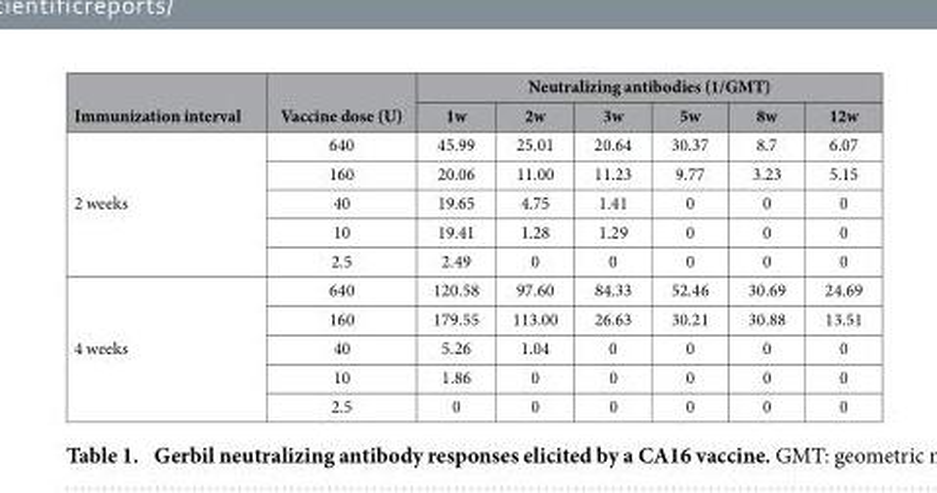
<table><thead><tr><td rowspan="2">Immunization interval</td><td rowspan="2">Vaccine dose (U)</td><td colspan="6">Neutralizing antibodies (1/GMT)</td></tr><tr><td>1w</td><td>2w</td><td>3w</td><td>5w</td><td>8w</td><td>12w</td></tr></thead><tbody><tr><td rowspan="5">2 weeks</td><td>640</td><td>45.99</td><td>25.01</td><td>20.64</td><td>30.37</td><td>8.7</td><td>6.07</td></tr><tr><td>160</td><td>20.06</td><td>11.00</td><td>11.23</td><td>9.77</td><td>3.23</td><td>5.15</td></tr><tr><td>40</td><td>19.65</td><td>4.75</td><td>1.41</td><td>0</td><td>0</td><td>0</td></tr><tr><td>10</td><td>19.41</td><td>1.28</td><td>1.29</td><td>0</td><td>0</td><td>0</td></tr><tr><td>2.5</td><td>2.49</td><td>0</td><td>0</td><td>0</td><td>0</td><td>0</td></tr><tr><td rowspan="5">4 weeks</td><td>640</td><td>120.58</td><td>97.60</td><td>84.33</td><td>52.46</td><td>30.69</td><td>24.69</td></tr><tr><td>160</td><td>179.55</td><td>113.00</td><td>26.63</td><td>30.21</td><td>30.88</td><td>13.51</td></tr><tr><td>40</td><td>5.26</td><td>1.04</td><td>0</td><td>0</td><td>0</td><td>0</td></tr><tr><td>10</td><td>1.86</td><td>0</td><td>0</td><td>0</td><td>0</td><td>0</td></tr><tr><td>2.5</td><td>0</td><td>0</td><td>0</td><td>0</td><td>0</td><td>0</td></tr></tbody></table>